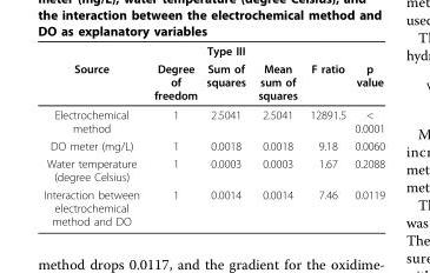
<table><thead><tr><td rowspan="2">Source</td><td rowspan="2">Degree of freedom</td><td rowspan="2">Type III Sum of squares</td><td rowspan="2">Mean sum of squares</td><td rowspan="2">F ratio</td><td rowspan="2">p value</td></tr><tr></tr></thead><tbody><tr><td>Electrochemical method</td><td>1</td><td>2.5041</td><td>2.5041</td><td>12891.5</td><td>&lt; 0.0001</td></tr><tr><td>DO meter (mg/L)</td><td>1</td><td>0.0018</td><td>0.0018</td><td>9.18</td><td>0.0060</td></tr><tr><td>Water temperature (degree Celsius)</td><td>1</td><td>0.0003</td><td>0.0003</td><td>1.67</td><td>0.2088</td></tr><tr><td>Interaction between electrochemical method and DO</td><td>1</td><td>0.0014</td><td>0.0014</td><td>7.46</td><td>0.0119</td></tr></tbody></table>